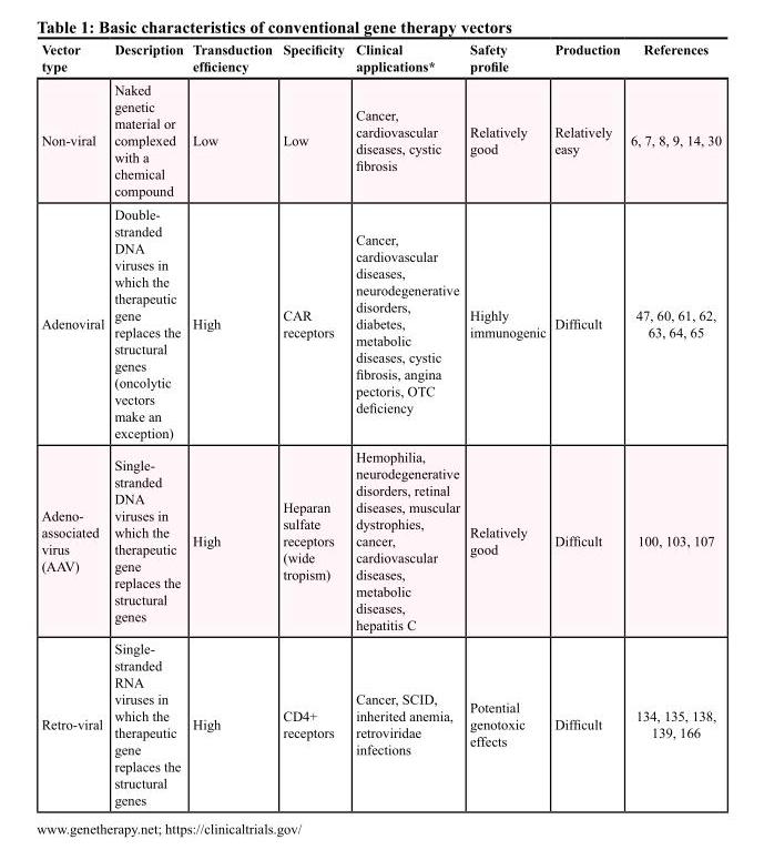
<table><thead><tr><td>Vector type</td><td>Description</td><td>Transduction efficiency</td><td>Specificity</td><td>Clinical applications*</td><td>Safety profile</td><td>Production</td><td>References</td></tr></thead><tbody><tr><td>Non-viral</td><td>Naked genetic material or complexed with a chemical compound</td><td>Low</td><td>Low</td><td>Cancer, cardiovascular diseases, cystic fibrosis</td><td>Relatively good</td><td>Relatively easy</td><td>6, 7, 8, 9, 14, 30</td></tr><tr><td>Adenoviral</td><td>Double- stranded DNA viruses in which the therapeutic gene replaces the structural genes (oncolytic vectors make an exception)</td><td>High</td><td>CAR receptors</td><td>Cancer, cardiovascular diseases, neurodegenerative disorders, diabetes, metabolic diseases, cystic fibrosis, angina pectoris, OTC deficiency</td><td>Highly immunogenic</td><td>Difficult</td><td>47, 60, 61, 62, 63, 64, 65</td></tr><tr><td>Adeno- associated virus (AAV)</td><td>Single- stranded DNA viruses in which the therapeutic gene replaces the structural genes</td><td>High</td><td>Heparan sulfate receptors (wide tropism)</td><td>Hemophilia, neurodegenerative disorders, retinal diseases, muscular dystrophies, cancer, cardiovascular diseases, metabolic diseases, hepatitis C</td><td>Relatively good</td><td>Difficult</td><td>100, 103, 107</td></tr><tr><td>Retro-viral</td><td>Single- stranded RNA viruses in which the therapeutic gene replaces the structural genes</td><td>High</td><td>CD4+ receptors</td><td>Cancer, SCID, inherited anemia, retroviridae infections</td><td>Potential genotoxic effects</td><td>Difficult</td><td>134, 135, 138, 139, 166</td></tr></tbody></table>